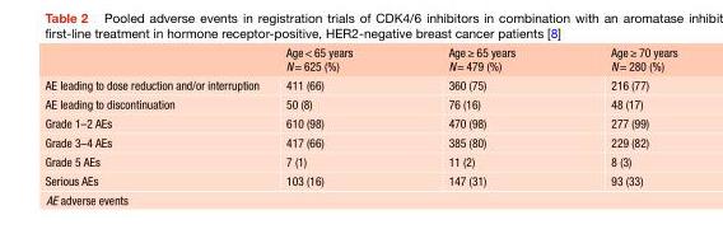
<table><thead><tr><td></td><td>Age&lt; 65 years N= 625 (%)</td><td>Age≥ 65 years N= 479 (%)</td><td>Age≥ 70 years N= 280 (%)</td></tr></thead><tbody><tr><td>AE leading to dose reduction and/or interruption</td><td>411 (66)</td><td>360 (75)</td><td>216 (77)</td></tr><tr><td>AE leading to discontinuation</td><td>50 (8)</td><td>76 (16)</td><td>48 (17)</td></tr><tr><td>Grade 1–2 AEs</td><td>610 (98)</td><td>470 (98)</td><td>277 (99)</td></tr><tr><td>Grade 3–4 AEs</td><td>417 (66)</td><td>385 (80)</td><td>229 (82)</td></tr><tr><td>Grade 5 AEs</td><td>7 (1)</td><td>11 (2)</td><td>8 (3)</td></tr><tr><td>Serious AEs</td><td>103 (16)</td><td>147 (31)</td><td>93 (33)</td></tr></tbody></table>